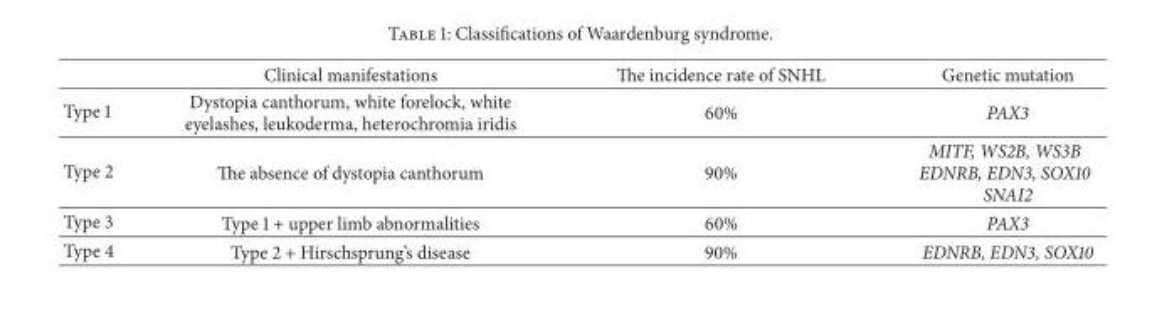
<table><thead><tr><td></td><td>Clinical manifestations</td><td>The incidence rate of SNHL</td><td>Genetic mutation</td></tr></thead><tbody><tr><td>Type 1</td><td>Dystopia canthorum, white forelock, white eyelashes, leukoderma, heterochromia iridis</td><td>60%</td><td>PAX3</td></tr><tr><td>Type 2</td><td>The absence of dystopia canthorum</td><td>90%</td><td>MITF, WS2B, WS3B EDNRB, EDN3, SOX10 SNAI2</td></tr><tr><td>Type 3</td><td>Type 1 + upper limb abnormalities</td><td>60%</td><td>PAX3</td></tr><tr><td>Type 4</td><td>Type 2 + Hirschsprung’s disease</td><td>90%</td><td>EDNRB, EDN3, SOX10</td></tr></tbody></table>